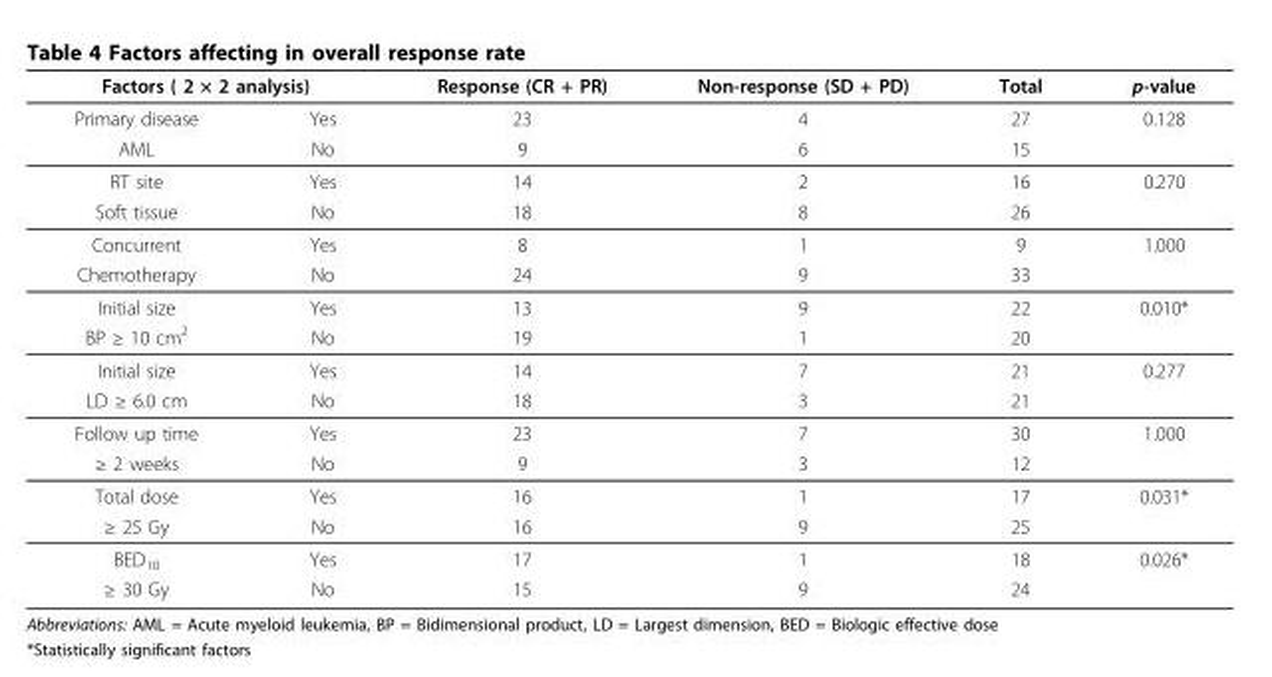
<table><thead><tr><td colspan="2">Factors ( 2 × 2 analysis)</td><td rowspan="2">Response (CR + PR) 23</td><td rowspan="2">Non-response (SD + PD) 4</td><td rowspan="2">Total 27</td><td rowspan="2">p-value 0.128</td></tr><tr><td>Primary disease</td><td>Yes</td></tr></thead><tbody><tr><td>AML</td><td>No</td><td>9</td><td>6</td><td>15</td><td></td></tr><tr><td>RT site</td><td>Yes</td><td>14</td><td>2</td><td>16</td><td>0.270</td></tr><tr><td>Soft tissue</td><td>No</td><td>18</td><td>8</td><td>26</td><td></td></tr><tr><td>Concurrent</td><td>Yes</td><td>8</td><td>1</td><td>9</td><td>1.000</td></tr><tr><td>Chemotherapy</td><td>No</td><td>24</td><td>9</td><td>33</td><td></td></tr><tr><td>Initial size</td><td>Yes</td><td>13</td><td>9</td><td>22</td><td>0.010*</td></tr><tr><td>BP ≥ 10 cm<sup>2</sup></td><td>No</td><td>19</td><td>1</td><td>20</td><td></td></tr><tr><td>Initial size</td><td>Yes</td><td>14</td><td>7</td><td>21</td><td>0.277</td></tr><tr><td>LD ≥ 6.0 cm</td><td>No</td><td>18</td><td>3</td><td>21</td><td></td></tr><tr><td>Follow up time</td><td>Yes</td><td>23</td><td>7</td><td>30</td><td>1.000</td></tr><tr><td>≥ 2 weeks</td><td>No</td><td>9</td><td>3</td><td>12</td><td></td></tr><tr><td>Total dose</td><td>Yes</td><td>16</td><td>1</td><td>17</td><td>0.031*</td></tr><tr><td>≥ 25 Gy</td><td>No</td><td>16</td><td>9</td><td>25</td><td></td></tr><tr><td>BED<sub>10</sub></td><td>Yes</td><td>17</td><td>1</td><td>18</td><td>0.026*</td></tr><tr><td>≥ 30 Gy</td><td>No</td><td>15</td><td>9</td><td>24</td><td></td></tr></tbody></table>